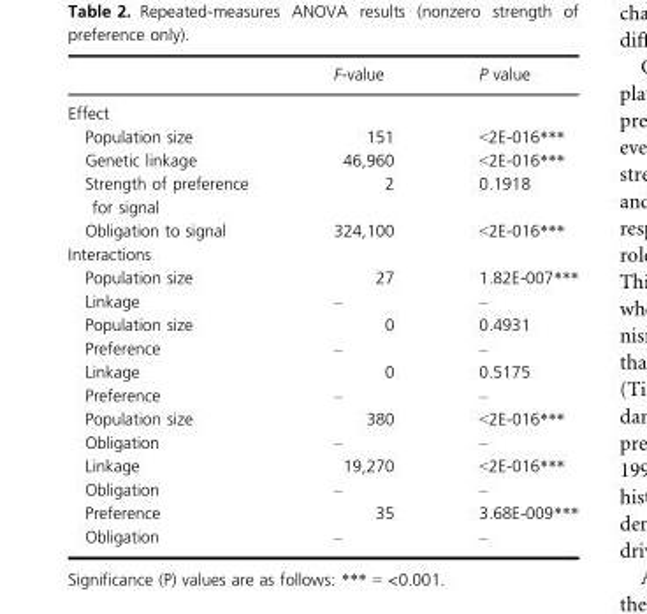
<table><thead><tr><td></td><td>F-value</td><td>P value</td></tr></thead><tbody><tr><td colspan="3">Effect</td></tr><tr><td>Population size</td><td>151</td><td>&lt;2E-016***</td></tr><tr><td>Genetic linkage</td><td>46,960</td><td>&lt;2E-016***</td></tr><tr><td>Strength of preference for signal</td><td>2</td><td>0.1918</td></tr><tr><td>Obligation to signal</td><td>324,100</td><td>&lt;2E-016***</td></tr><tr><td colspan="3">Interactions</td></tr><tr><td>Population size</td><td>27</td><td>1.82E-007***</td></tr><tr><td>Linkage</td><td>–</td><td>–</td></tr><tr><td>Population size</td><td>0</td><td>0.4931</td></tr><tr><td>Preference</td><td>–</td><td>–</td></tr><tr><td>Linkage</td><td>0</td><td>0.5175</td></tr><tr><td>Preference</td><td>–</td><td>–</td></tr><tr><td>Population size</td><td>380</td><td>&lt;2E-016***</td></tr><tr><td>Obligation</td><td>–</td><td>–</td></tr><tr><td>Linkage</td><td>19,270</td><td>&lt;2E-016***</td></tr><tr><td>Obligation</td><td>–</td><td>–</td></tr><tr><td>Preference</td><td>35</td><td>3.68E-009***</td></tr><tr><td>Obligation</td><td>–</td><td>–</td></tr></tbody></table>